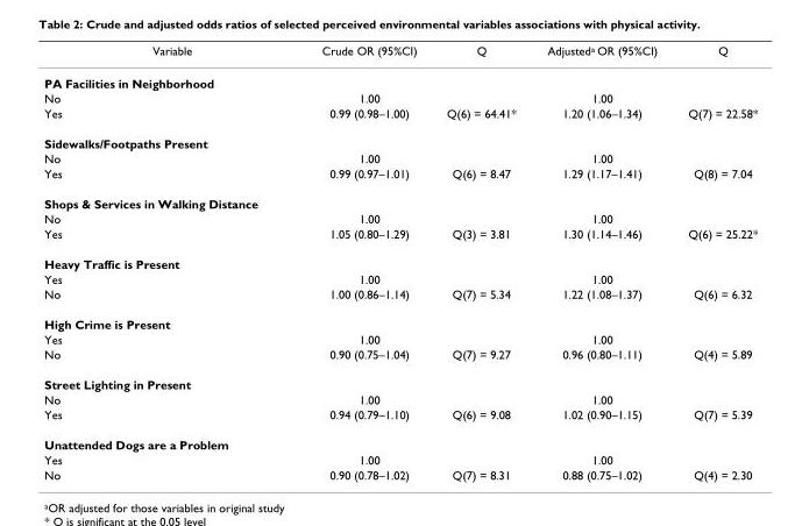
<table><thead><tr><td>Variable</td><td>Crude OR (95%CI)</td><td>Q</td><td>Adjusted<sup>a</sup> OR (95%CI)</td><td>Q</td></tr></thead><tbody><tr><td colspan="5">PA Facilities in Neighborhood</td></tr><tr><td>No</td><td>1.00</td><td></td><td>1.00</td><td></td></tr><tr><td>Yes</td><td>0.99 (0.98–1.00)</td><td>Q(6) = 64.41*</td><td>1.20 (1.06–1.34)</td><td>Q(7) = 22.58*</td></tr><tr><td colspan="5">Sidewalks/Footpaths Present</td></tr><tr><td>No</td><td>1.00</td><td></td><td>1.00</td><td></td></tr><tr><td>Yes</td><td>0.99 (0.97–1.01)</td><td>Q(6) = 8.47</td><td>1.29 (1.17–1.41)</td><td>Q(8) = 7.04</td></tr><tr><td colspan="5">Shops &amp; Services in Walking Distance</td></tr><tr><td>No</td><td>1.00</td><td></td><td>1.00</td><td></td></tr><tr><td>Yes</td><td>1.05 (0.80–1.29)</td><td>Q(3) = 3.81</td><td>1.30 (1.14–1.46)</td><td>Q(6) = 25.22*</td></tr><tr><td colspan="5">Heavy Traffic is Present</td></tr><tr><td>Yes</td><td>1.00</td><td></td><td>1.00</td><td></td></tr><tr><td>No</td><td>1.00 (0.86–1.14)</td><td>Q(7) = 5.34</td><td>1.22 (1.08–1.37)</td><td>Q(6) = 6.32</td></tr><tr><td colspan="5">High Crime is Present</td></tr><tr><td>Yes</td><td>1.00</td><td></td><td>1.00</td><td></td></tr><tr><td>No</td><td>0.90 (0.75–1.04)</td><td>Q(7) = 9.27</td><td>0.96 (0.80–1.11)</td><td>Q(4) = 5.89</td></tr><tr><td colspan="5">Street Lighting in Present</td></tr><tr><td>No</td><td>1.00</td><td></td><td>1.00</td><td></td></tr><tr><td>Yes</td><td>0.94 (0.79–1.10)</td><td>Q(6) = 9.08</td><td>1.02 (0.90–1.15)</td><td>Q(7) = 5.39</td></tr><tr><td colspan="5">Unattended Dogs are a Problem</td></tr><tr><td>Yes</td><td>1.00</td><td></td><td>1.00</td><td></td></tr><tr><td>No</td><td>0.90 (0.78–1.02)</td><td>Q(7) = 8.31</td><td>0.88 (0.75–1.02)</td><td>Q(4) = 2.30</td></tr></tbody></table>